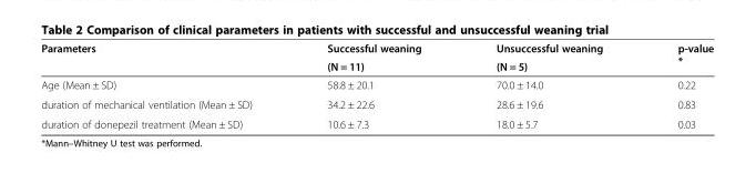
<table><thead><tr><td rowspan="2">Parameters</td><td rowspan="2">Successful weaning (N = 11)</td><td rowspan="2">Unsuccessful weaning (N = 5)</td><td rowspan="2">p-value *</td></tr><tr></tr></thead><tbody><tr><td>Age (Mean ± SD)</td><td>58.8 ± 20.1</td><td>70.0 ± 14.0</td><td>0.22</td></tr><tr><td>duration of mechanical ventilation (Mean ± SD)</td><td>34.2 ± 22.6</td><td>28.6 ± 19.6</td><td>0.83</td></tr><tr><td>duration of donepezil treatment (Mean ± SD)</td><td>10.6 ± 7.3</td><td>18.0 ± 5.7</td><td>0.03</td></tr></tbody></table>